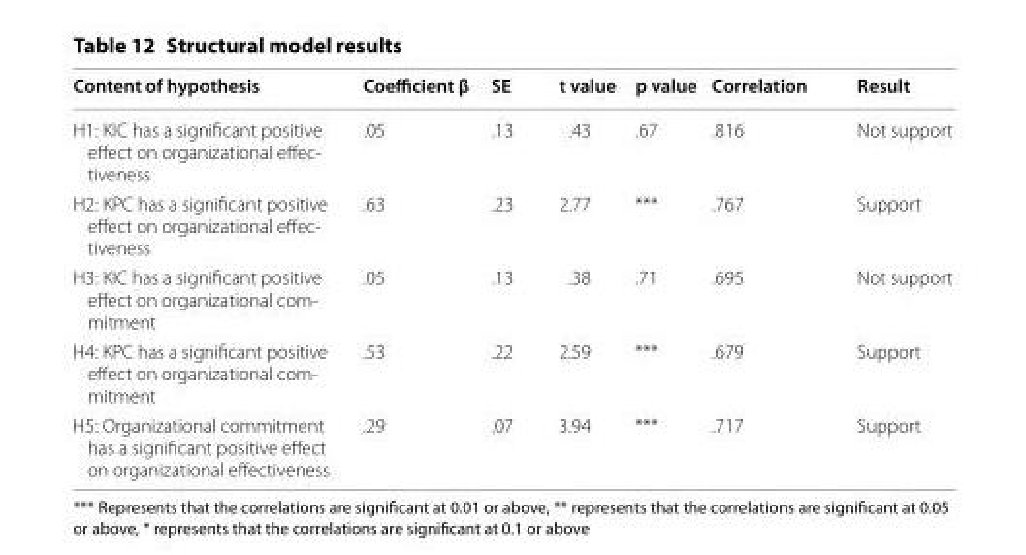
<table><thead><tr><td>Content of hypothesis</td><td>Coefficient β</td><td>SE</td><td>t value</td><td>p value</td><td>Correlation</td><td>Result</td></tr></thead><tbody><tr><td>H1: KIC has a significant positive effect on organizational effec‑ tiveness</td><td>.05</td><td>.13</td><td>.43</td><td>.67</td><td>.816</td><td>Not support</td></tr><tr><td>H2: KPC has a significant positive effect on organizational effec‑ tiveness</td><td>.63</td><td>.23</td><td>2.77</td><td>***</td><td>.767</td><td>Support</td></tr><tr><td>H3: KIC has a significant positive effect on organizational com‑ mitment</td><td>.05</td><td>.13</td><td>.38</td><td>.71</td><td>.695</td><td>Not support</td></tr><tr><td>H4: KPC has a significant positive effect on organizational com‑ mitment</td><td>.53</td><td>.22</td><td>2.59</td><td>***</td><td>.679</td><td>Support</td></tr><tr><td>H5: Organizational commitment has a significant positive effect on organizational effectiveness</td><td>.29</td><td>.07</td><td>3.94</td><td>***</td><td>.717</td><td>Support</td></tr></tbody></table>